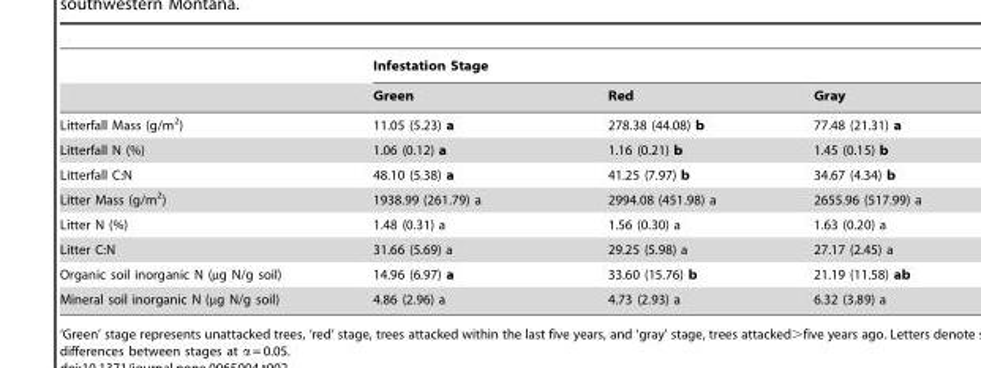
<table><thead><tr><td rowspan="2"></td><td colspan="3">Infestation Stage</td></tr><tr><td>Green</td><td>Red</td><td>Gray</td></tr></thead><tbody><tr><td>Litterfall Mass (g/m<sup>2</sup>)</td><td>11.05 (5.23) a</td><td>278.38 (44.08) b</td><td>77.48 (21.31) a</td></tr><tr><td>Litterfall N (%)</td><td>1.06 (0.12) a</td><td>1.16 (0.21) b</td><td>1.45 (0.15) b</td></tr><tr><td>Litterfall C:N</td><td>48.10 (5.38) a</td><td>41.25 (7.97) b</td><td>34.67 (4.34) b</td></tr><tr><td>Litter Mass (g/m<sup>2</sup>)</td><td>1938.99 (261.79) a</td><td>2994.08 (451.98) a</td><td>2655.96 (517.99) a</td></tr><tr><td>Litter N (%)</td><td>1.48 (0.31) a</td><td>1.56 (0.30) a</td><td>1.63 (0.20) a</td></tr><tr><td>Litter C:N</td><td>31.66 (5.69) a</td><td>29.25 (5.98) a</td><td>27.17 (2.45) a</td></tr><tr><td>Organic soil inorganic N (µg N/g soil)</td><td>14.96 (6.97) a</td><td>33.60 (15.76) b</td><td>21.19 (11.58) ab</td></tr><tr><td>Mineral soil inorganic N (µg N/g soil)</td><td>4.86 (2.96) a</td><td>4.73 (2.93) a</td><td>6.32 (3.89) a</td></tr></tbody></table>